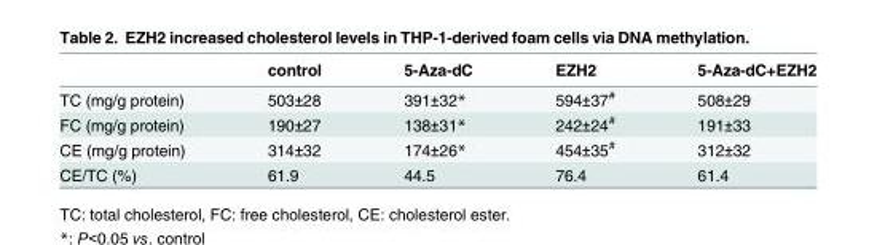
<table><thead><tr><td></td><td>control</td><td>5-Aza-dC</td><td>EZH2</td><td>5-Aza-dC+EZH2</td></tr></thead><tbody><tr><td>TC (mg/g protein)</td><td>503±28</td><td>391±32*</td><td>594±37<sup>#</sup></td><td>508±29</td></tr><tr><td>FC (mg/g protein)</td><td>190±27</td><td>138±31*</td><td>242±24<sup>#</sup></td><td>191±33</td></tr><tr><td>CE (mg/g protein)</td><td>314±32</td><td>174±26*</td><td>454±35<sup>#</sup></td><td>312±32</td></tr><tr><td>CE/TC (%)</td><td>61.9</td><td>44.5</td><td>76.4</td><td>61.4</td></tr></tbody></table>